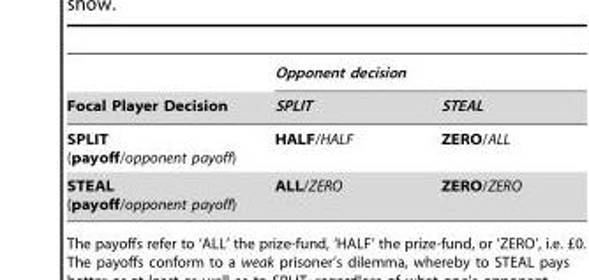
<table><thead><tr><td rowspan="2">Focal Player Decision</td><td colspan="2">Opponent decision</td></tr><tr><td>SPLIT</td><td>STEAL</td></tr></thead><tbody><tr><td>SPLIT (payoff/opponent payoff)</td><td>HALF/HALF</td><td>ZERO/ALL</td></tr><tr><td>STEAL (payoff/opponent payoff)</td><td>ALL/ZERO</td><td>ZERO/ZERO</td></tr></tbody></table>